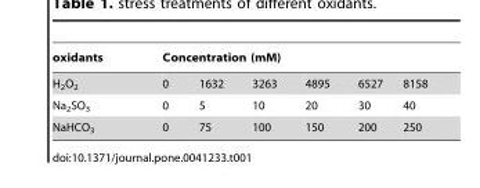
<table><thead><tr><td rowspan="2">oxidants H<sub>2</sub>O<sub>2</sub></td><td colspan="6">Concentration (mM)</td></tr><tr><td>0</td><td>1632</td><td>3263</td><td>4895</td><td>6527</td><td>8158</td></tr></thead><tbody><tr><td>Na<sub>2</sub>SO<sub>3</sub></td><td>0</td><td>5</td><td>10</td><td>20</td><td>30</td><td>40</td></tr><tr><td>NaHCO<sub>3</sub></td><td>0</td><td>75</td><td>100</td><td>150</td><td>200</td><td>250</td></tr></tbody></table>